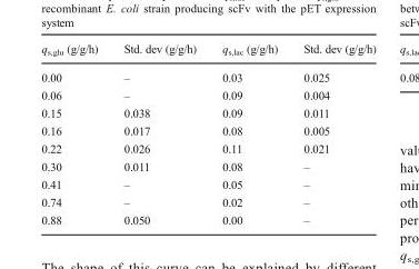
<table><thead><tr><td>q<sub>s,glu</sub> (g/g/h)</td><td>Std. dev (g/g/h)</td><td>q<sub>s,lac</sub> (g/g/h)</td><td>Std. dev (g/g/h)</td></tr></thead><tbody><tr><td>0.00</td><td>–</td><td>0.03</td><td>0.025</td></tr><tr><td>0.06</td><td>–</td><td>0.09</td><td>0.004</td></tr><tr><td>0.15</td><td>0.038</td><td>0.09</td><td>0.011</td></tr><tr><td>0.16</td><td>0.017</td><td>0.08</td><td>0.005</td></tr><tr><td>0.22</td><td>0.026</td><td>0.11</td><td>0.021</td></tr><tr><td>0.30</td><td>0.011</td><td>0.08</td><td>–</td></tr><tr><td>0.41</td><td>–</td><td>0.05</td><td>–</td></tr><tr><td>0.74</td><td>–</td><td>0.02</td><td>–</td></tr><tr><td>0.88</td><td>0.050</td><td>0.00</td><td>–</td></tr></tbody></table>